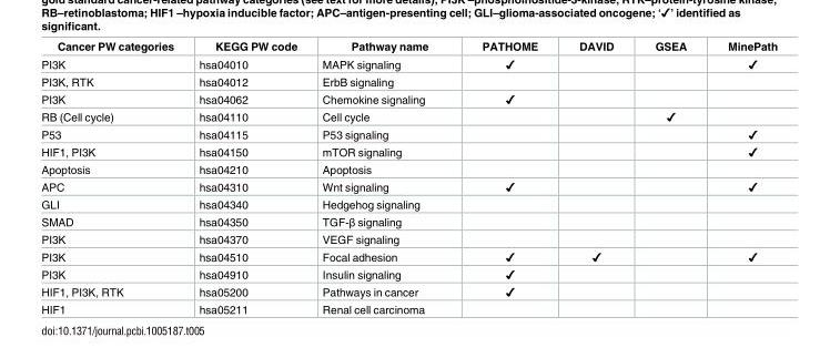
<table><thead><tr><td>Cancer PW categories</td><td>KEGG PW code</td><td>Pathway name</td><td>PATHOME</td><td>DAVID</td><td>GSEA</td><td>MinePath</td></tr></thead><tbody><tr><td>PI3K</td><td>hsa04010</td><td>MAPK signaling</td><td>✔</td><td></td><td></td><td>✔</td></tr><tr><td>PI3K, RTK</td><td>hsa04012</td><td>ErbB signaling</td><td></td><td></td><td></td><td></td></tr><tr><td>PI3K</td><td>hsa04062</td><td>Chemokine signaling</td><td>✔</td><td></td><td></td><td></td></tr><tr><td>RB (Cell cycle)</td><td>hsa04110</td><td>Cell cycle</td><td></td><td></td><td>✔</td><td></td></tr><tr><td>P53</td><td>hsa04115</td><td>P53 signaling</td><td></td><td></td><td></td><td>✔</td></tr><tr><td>HIF1, PI3K</td><td>hsa04150</td><td>mTOR signaling</td><td></td><td></td><td></td><td>✔</td></tr><tr><td>Apoptosis</td><td>hsa04210</td><td>Apoptosis</td><td></td><td></td><td></td><td></td></tr><tr><td>APC</td><td>hsa04310</td><td>Wnt signaling</td><td>✔</td><td></td><td></td><td>✔</td></tr><tr><td>GLI</td><td>hsa04340</td><td>Hedgehog signaling</td><td></td><td></td><td></td><td></td></tr><tr><td>SMAD</td><td>hsa04350</td><td>TGF-β signaling</td><td></td><td></td><td></td><td></td></tr><tr><td>PI3K</td><td>hsa04370</td><td>VEGF signaling</td><td></td><td></td><td></td><td></td></tr><tr><td>PI3K</td><td>hsa04510</td><td>Focal adhesion</td><td>✔</td><td>✔</td><td></td><td>✔</td></tr><tr><td>PI3K</td><td>hsa04910</td><td>Insulin signaling</td><td>✔</td><td></td><td></td><td></td></tr><tr><td>HIF1, PI3K, RTK</td><td>hsa05200</td><td>Pathways in cancer</td><td>✔</td><td></td><td></td><td></td></tr><tr><td>HIF1</td><td>hsa05211</td><td>Renal cell carcinoma</td><td></td><td></td><td></td><td></td></tr></tbody></table>